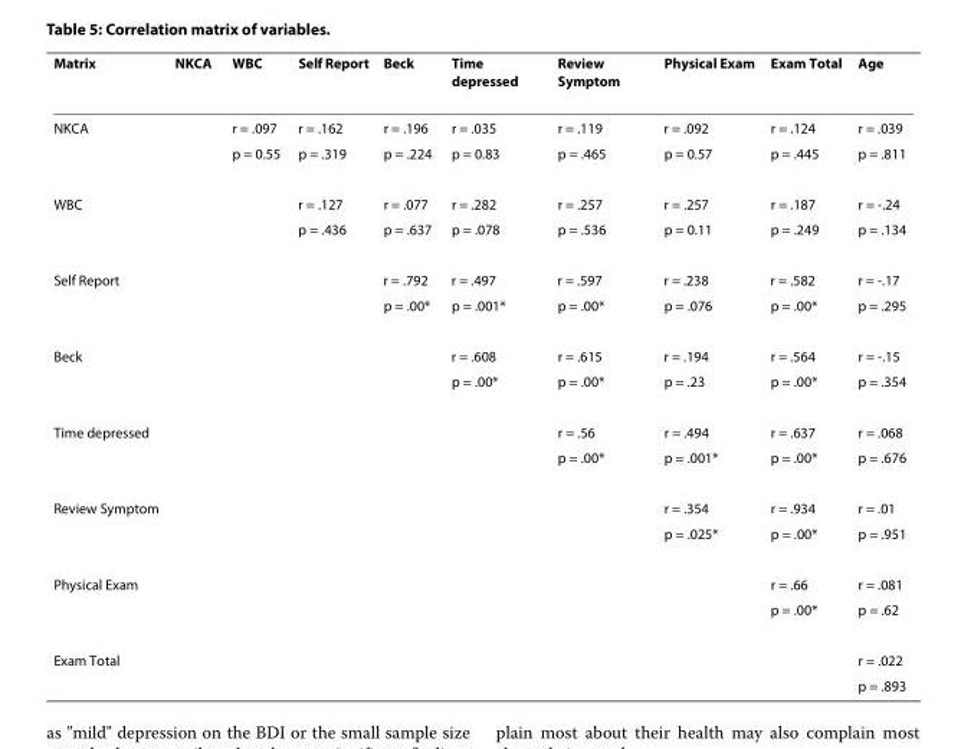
<table><thead><tr><td>Matrix</td><td>NKCA</td><td>WBC</td><td>Self Report</td><td>Beck</td><td>Time depressed</td><td>Review Symptom</td><td>Physical Exam</td><td>Exam Total</td><td>Age</td></tr></thead><tbody><tr><td rowspan="2">NKCA</td><td></td><td>r = .097</td><td>r = .162</td><td>r = .196</td><td>r = .035</td><td>r = .119</td><td>r = .092</td><td>r = .124</td><td>r = .039</td></tr><tr><td></td><td>p = 0.55</td><td>p = .319</td><td>p = .224</td><td>p = 0.83</td><td>p = .465</td><td>p = 0.57</td><td>p = .445</td><td>p = .811</td></tr><tr><td rowspan="2">WBC</td><td></td><td></td><td>r = .127</td><td>r = .077</td><td>r = .282</td><td>r = .257</td><td>r = .257</td><td>r = .187</td><td>r = -.24</td></tr><tr><td></td><td></td><td>p = .436</td><td>p = .637</td><td>p = .078</td><td>p = .536</td><td>p = 0.11</td><td>p = .249</td><td>p = .134</td></tr><tr><td rowspan="2">Self Report</td><td></td><td></td><td></td><td>r = .792</td><td>r = .497</td><td>r = .597</td><td>r = .238</td><td>r = .582</td><td>r = -.17</td></tr><tr><td></td><td></td><td></td><td>p = .00*</td><td>p = .001*</td><td>p = .00*</td><td>p = .076</td><td>p = .00*</td><td>p = .295</td></tr><tr><td rowspan="2">Beck</td><td></td><td></td><td></td><td></td><td>r = .608</td><td>r = .615</td><td>r = .194</td><td>r = .564</td><td>r = -.15</td></tr><tr><td></td><td></td><td></td><td></td><td>p = .00*</td><td>p = .00*</td><td>p = .23</td><td>p = .00*</td><td>p = .354</td></tr><tr><td rowspan="2">Time depressed</td><td></td><td></td><td></td><td></td><td></td><td>r = .56</td><td>r = .494</td><td>r = .637</td><td>r = .068</td></tr><tr><td></td><td></td><td></td><td></td><td></td><td>p = .00*</td><td>p = .001*</td><td>p = .00*</td><td>p = .676</td></tr><tr><td rowspan="2">Review Symptom</td><td></td><td></td><td></td><td></td><td></td><td></td><td>r = .354</td><td>r = .934</td><td>r = .01</td></tr><tr><td></td><td></td><td></td><td></td><td></td><td></td><td>p = .025*</td><td>p = .00*</td><td>p = .951</td></tr><tr><td rowspan="2">Physical Exam</td><td></td><td></td><td></td><td></td><td></td><td></td><td></td><td>r = .66</td><td>r = .081</td></tr><tr><td></td><td></td><td></td><td></td><td></td><td></td><td></td><td>p = .00*</td><td>p = .62</td></tr><tr><td rowspan="2">Exam Total</td><td></td><td></td><td></td><td></td><td></td><td></td><td></td><td></td><td>r = .022</td></tr><tr><td></td><td></td><td></td><td></td><td></td><td></td><td></td><td></td><td>p = .893</td></tr></tbody></table>